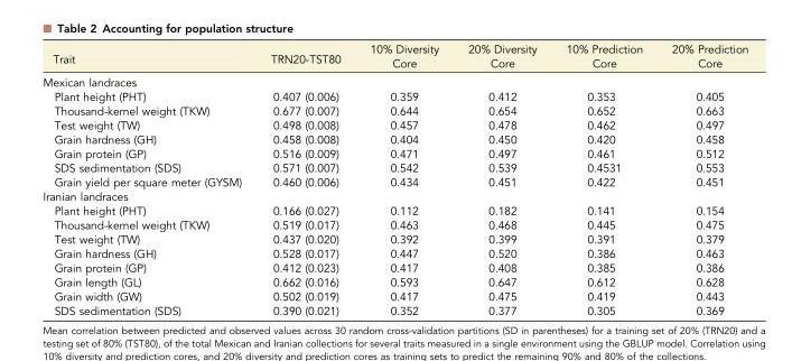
<table><thead><tr><td>Trait</td><td>TRN20-TST80</td><td>10% Diversity Core</td><td>20% Diversity Core</td><td>10% Prediction Core</td><td>20% Prediction Core</td></tr></thead><tbody><tr><td colspan="6">Mexican landraces</td></tr><tr><td>Plant height (PHT)</td><td>0.407 (0.006)</td><td>0.359</td><td>0.412</td><td>0.353</td><td>0.405</td></tr><tr><td>Thousand-kernel weight (TKW)</td><td>0.677 (0.007)</td><td>0.644</td><td>0.654</td><td>0.652</td><td>0.663</td></tr><tr><td>Test weight (TW)</td><td>0.498 (0.008)</td><td>0.457</td><td>0.478</td><td>0.462</td><td>0.497</td></tr><tr><td>Grain hardness (GH)</td><td>0.458 (0.008)</td><td>0.404</td><td>0.450</td><td>0.420</td><td>0.458</td></tr><tr><td>Grain protein (GP)</td><td>0.516 (0.009)</td><td>0.471</td><td>0.497</td><td>0.461</td><td>0.512</td></tr><tr><td>SDS sedimentation (SDS)</td><td>0.571 (0.007)</td><td>0.542</td><td>0.539</td><td>0.4531</td><td>0.553</td></tr><tr><td>Grain yield per square meter (GYSM)</td><td>0.460 (0.006)</td><td>0.434</td><td>0.451</td><td>0.422</td><td>0.451</td></tr><tr><td colspan="6">Iranian landraces</td></tr><tr><td>Plant height (PHT)</td><td>0.166 (0.027)</td><td>0.112</td><td>0.182</td><td>0.141</td><td>0.154</td></tr><tr><td>Thousand-kernel weight (TKW)</td><td>0.519 (0.017)</td><td>0.463</td><td>0.468</td><td>0.445</td><td>0.475</td></tr><tr><td>Test weight (TW)</td><td>0.437 (0.020)</td><td>0.392</td><td>0.399</td><td>0.391</td><td>0.379</td></tr><tr><td>Grain hardness (GH)</td><td>0.528 (0.017)</td><td>0.447</td><td>0.520</td><td>0.386</td><td>0.463</td></tr><tr><td>Grain protein (GP)</td><td>0.412 (0.023)</td><td>0.417</td><td>0.408</td><td>0.385</td><td>0.386</td></tr><tr><td>Grain length (GL)</td><td>0.662 (0.016)</td><td>0.593</td><td>0.647</td><td>0.612</td><td>0.628</td></tr><tr><td>Grain width (GW)</td><td>0.502 (0.019)</td><td>0.417</td><td>0.475</td><td>0.419</td><td>0.443</td></tr><tr><td>SDS sedimentation (SDS)</td><td>0.390 (0.021)</td><td>0.352</td><td>0.377</td><td>0.305</td><td>0.369</td></tr></tbody></table>